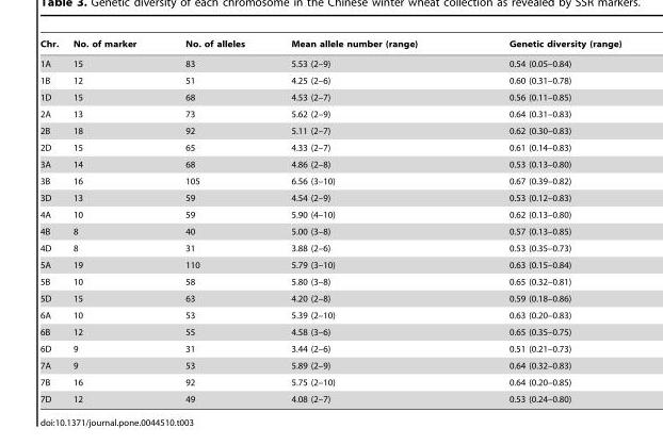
<table><thead><tr><td>Chr.</td><td>No. of marker</td><td>No. of alleles</td><td>Mean allele number (range)</td><td>Genetic diversity (range)</td></tr></thead><tbody><tr><td>1A</td><td>15</td><td>83</td><td>5.53 (2–9)</td><td>0.54 (0.05–0.84)</td></tr><tr><td>1B</td><td>12</td><td>51</td><td>4.25 (2–6)</td><td>0.60 (0.31–0.78)</td></tr><tr><td>1D</td><td>15</td><td>68</td><td>4.53 (2–7)</td><td>0.56 (0.11–0.85)</td></tr><tr><td>2A</td><td>13</td><td>73</td><td>5.62 (2–9)</td><td>0.64 (0.31–0.83)</td></tr><tr><td>2B</td><td>18</td><td>92</td><td>5.11 (2–7)</td><td>0.62 (0.30–0.83)</td></tr><tr><td>2D</td><td>15</td><td>65</td><td>4.33 (2–7)</td><td>0.61 (0.14–0.83)</td></tr><tr><td>3A</td><td>14</td><td>68</td><td>4.86 (2–8)</td><td>0.53 (0.13–0.80)</td></tr><tr><td>3B</td><td>16</td><td>105</td><td>6.56 (3–10)</td><td>0.67 (0.39–0.82)</td></tr><tr><td>3D</td><td>13</td><td>59</td><td>4.54 (2–9)</td><td>0.53 (0.12–0.83)</td></tr><tr><td>4A</td><td>10</td><td>59</td><td>5.90 (4–10)</td><td>0.62 (0.13–0.80)</td></tr><tr><td>4B</td><td>8</td><td>40</td><td>5.00 (3–8)</td><td>0.57 (0.13–0.85)</td></tr><tr><td>4D</td><td>8</td><td>31</td><td>3.88 (2–6)</td><td>0.53 (0.35–0.73)</td></tr><tr><td>5A</td><td>19</td><td>110</td><td>5.79 (3–10)</td><td>0.63 (0.15–0.84)</td></tr><tr><td>5B</td><td>10</td><td>58</td><td>5.80 (3–8)</td><td>0.65 (0.32–0.81)</td></tr><tr><td>5D</td><td>15</td><td>63</td><td>4.20 (2–8)</td><td>0.59 (0.18–0.86)</td></tr><tr><td>6A</td><td>10</td><td>53</td><td>5.39 (2–10)</td><td>0.63 (0.20–0.83)</td></tr><tr><td>6B</td><td>12</td><td>55</td><td>4.58 (3–6)</td><td>0.65 (0.35–0.75)</td></tr><tr><td>6D</td><td>9</td><td>31</td><td>3.44 (2–6)</td><td>0.51 (0.21–0.73)</td></tr><tr><td>7A</td><td>9</td><td>53</td><td>5.89 (2–9)</td><td>0.64 (0.32–0.83)</td></tr><tr><td>7B</td><td>16</td><td>92</td><td>5.75 (2–10)</td><td>0.64 (0.20–0.85)</td></tr><tr><td>7D</td><td>12</td><td>49</td><td>4.08 (2–7)</td><td>0.53 (0.24–0.80)</td></tr></tbody></table>